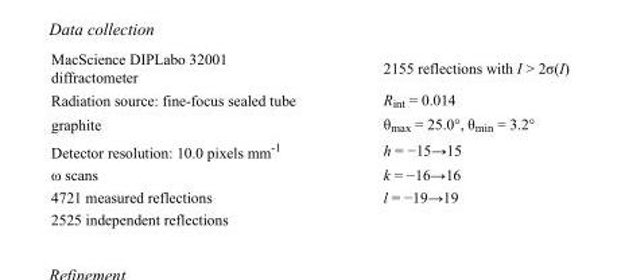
<table><tbody><tr><td>MacScience DIPLabo 32001 diffractometer</td><td>2155 reflections with I &gt; 2σ(I)</td></tr><tr><td>Radiation source: fine-focus sealed tube</td><td>R<sub>int</sub> = 0.014</td></tr><tr><td>graphite</td><td>θ<sub>max</sub> = 25.0°, θ<sub>min</sub> = 3.2°</td></tr><tr><td>Detector resolution: 10.0 pixels mm<sup>-1</sup></td><td>h = −15→15</td></tr><tr><td>ω scans</td><td>k = −16→16</td></tr><tr><td>4721 measured reflections</td><td>l = −19→19</td></tr><tr><td>2525 independent reflections</td><td></td></tr></tbody></table>